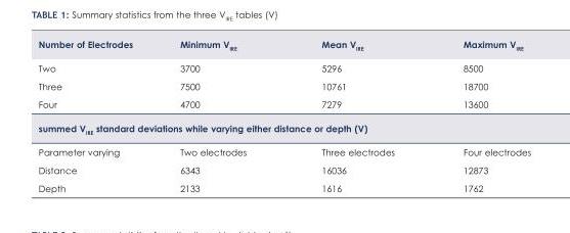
<table><thead><tr><td>Number of Electrodes</td><td>Minimum V<sub>IRE</sub></td><td>Mean V<sub>IRE</sub></td><td>Maximum V<sub>IRE</sub></td></tr></thead><tbody><tr><td>Two</td><td>3700</td><td>5296</td><td>8500</td></tr><tr><td>Three</td><td>7500</td><td>10761</td><td>18700</td></tr><tr><td>Four</td><td>4700</td><td>7279</td><td>13600</td></tr><tr><td colspan="4">summed V<sub>IRE</sub> standard deviations while varying either distance or depth (V)</td></tr><tr><td>Parameter varying</td><td>Two electrodes</td><td>Three electrodes</td><td>Four electrodes</td></tr><tr><td>Distance</td><td>6343</td><td>16036</td><td>12873</td></tr><tr><td>Depth</td><td>2133</td><td>1616</td><td>1762</td></tr></tbody></table>